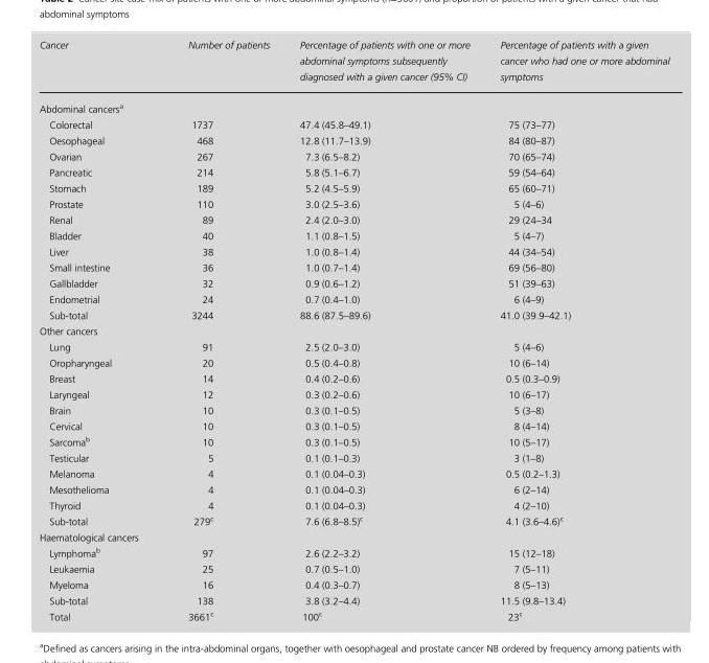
<table><thead><tr><td>Cancer</td><td>Number of patients</td><td>Percentage of patients with one or more abdominal symptoms subsequently diagnosed with a given cancer (95% CI)</td><td>Percentage of patients with a given cancer who had one or more abdominal symptoms</td></tr></thead><tbody><tr><td colspan="4">Abdominal cancers<sup>a</sup></td></tr><tr><td>Colorectal</td><td>1737</td><td>47.4 (45.8–49.1)</td><td>75 (73–77)</td></tr><tr><td>Oesophageal</td><td>468</td><td>12.8 (11.7–13.9)</td><td>84 (80–87)</td></tr><tr><td>Ovarian</td><td>267</td><td>7.3 (6.5–8.2)</td><td>70 (65–74)</td></tr><tr><td>Pancreatic</td><td>214</td><td>5.8 (5.1–6.7)</td><td>59 (54–64)</td></tr><tr><td>Stomach</td><td>189</td><td>5.2 (4.5–5.9)</td><td>65 (60–71)</td></tr><tr><td>Prostate</td><td>110</td><td>3.0 (2.5–3.6)</td><td>5 (4–6)</td></tr><tr><td>Renal</td><td>89</td><td>2.4 (2.0–3.0)</td><td>29 (24–34</td></tr><tr><td>Bladder</td><td>40</td><td>1.1 (0.8–1.5)</td><td>5 (4–7)</td></tr><tr><td>Liver</td><td>38</td><td>1.0 (0.8–1.4)</td><td>44 (34–54)</td></tr><tr><td>Small intestine</td><td>36</td><td>1.0 (0.7–1.4)</td><td>69 (56–80)</td></tr><tr><td>Gallbladder</td><td>32</td><td>0.9 (0.6–1.2)</td><td>51 (39–63)</td></tr><tr><td>Endometrial</td><td>24</td><td>0.7 (0.4–1.0)</td><td>6 (4–9)</td></tr><tr><td>Sub-total</td><td>3244</td><td>88.6 (87.5–89.6)</td><td>41.0 (39.9–42.1)</td></tr><tr><td colspan="4">Other cancers</td></tr><tr><td>Lung</td><td>91</td><td>2.5 (2.0–3.0)</td><td>5 (4–6)</td></tr><tr><td>Oropharyngeal</td><td>20</td><td>0.5 (0.4–0.8)</td><td>10 (6–14)</td></tr><tr><td>Breast</td><td>14</td><td>0.4 (0.2–0.6)</td><td>0.5 (0.3–0.9)</td></tr><tr><td>Laryngeal</td><td>12</td><td>0.3 (0.2–0.6)</td><td>10 (6–17)</td></tr><tr><td>Brain</td><td>10</td><td>0.3 (0.1–0.5)</td><td>5 (3–8)</td></tr><tr><td>Cervical</td><td>10</td><td>0.3 (0.1–0.5)</td><td>8 (4–14)</td></tr><tr><td>Sarcoma<sup>b</sup></td><td>10</td><td>0.3 (0.1–0.5)</td><td>10 (5–17)</td></tr><tr><td>Testicular</td><td>5</td><td>0.1 (0.1–0.3)</td><td>3 (1–8)</td></tr><tr><td>Melanoma</td><td>4</td><td>0.1 (0.04–0.3)</td><td>0.5 (0.2–1.3)</td></tr><tr><td>Mesothelioma</td><td>4</td><td>0.1 (0.04–0.3)</td><td>6 (2–14)</td></tr><tr><td>Thyroid</td><td>4</td><td>0.1 (0.04–0.3)</td><td>4 (2–10)</td></tr><tr><td>Sub-total</td><td>279<sup>c</sup></td><td>7.6 (6.8–8.5)<sup>c</sup></td><td>4.1 (3.6–4.6)<sup>c</sup></td></tr><tr><td colspan="4">Haematological cancers</td></tr><tr><td>Lymphoma<sup>b</sup></td><td>97</td><td>2.6 (2.2–3.2)</td><td>15 (12–18)</td></tr><tr><td>Leukaemia</td><td>25</td><td>0.7 (0.5–1.0)</td><td>7 (5–11)</td></tr><tr><td>Myeloma</td><td>16</td><td>0.4 (0.3–0.7)</td><td>8 (5–13)</td></tr><tr><td>Sub-total</td><td>138</td><td>3.8 (3.2–4.4)</td><td>11.5 (9.8–13.4)</td></tr><tr><td>Total</td><td>3661<sup>c</sup></td><td>100<sup>c</sup></td><td>23<sup>c</sup></td></tr></tbody></table>